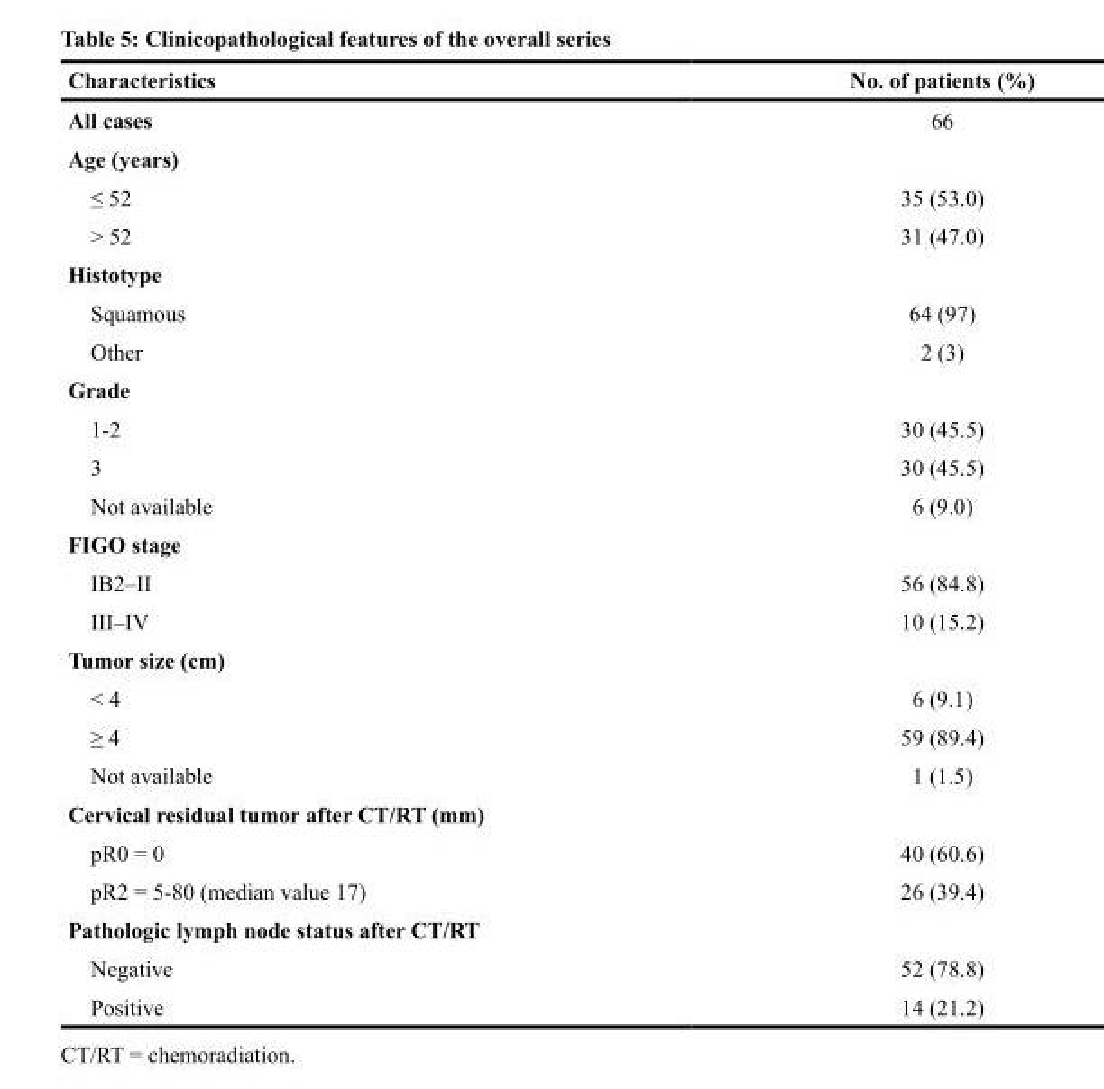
<table><thead><tr><td>Characteristics</td><td>No. of patients (%)</td></tr></thead><tbody><tr><td>All cases</td><td>66</td></tr><tr><td colspan="2">Age (years)</td></tr><tr><td>≤ 52</td><td>35 (53.0)</td></tr><tr><td>&gt; 52</td><td>31 (47.0)</td></tr><tr><td colspan="2">Histotype</td></tr><tr><td>Squamous</td><td>64 (97)</td></tr><tr><td>Other</td><td>2 (3)</td></tr><tr><td colspan="2">Grade</td></tr><tr><td>1-2</td><td>30 (45.5)</td></tr><tr><td>3</td><td>30 (45.5)</td></tr><tr><td>Not available</td><td>6 (9.0)</td></tr><tr><td colspan="2">FIGO stage</td></tr><tr><td>IB2–II</td><td>56 (84.8)</td></tr><tr><td>III–IV</td><td>10 (15.2)</td></tr><tr><td colspan="2">Tumor size (cm)</td></tr><tr><td>&lt; 4</td><td>6 (9.1)</td></tr><tr><td>≥ 4</td><td>59 (89.4)</td></tr><tr><td>Not available</td><td>1 (1.5)</td></tr><tr><td colspan="2">Cervical residual tumor after CT/RT (mm)</td></tr><tr><td>pR0 = 0</td><td>40 (60.6)</td></tr><tr><td>pR2 = 5-80 (median value 17)</td><td>26 (39.4)</td></tr><tr><td colspan="2">Pathologic lymph node status after CT/RT</td></tr><tr><td>Negative</td><td>52 (78.8)</td></tr><tr><td>Positive</td><td>14 (21.2)</td></tr></tbody></table>